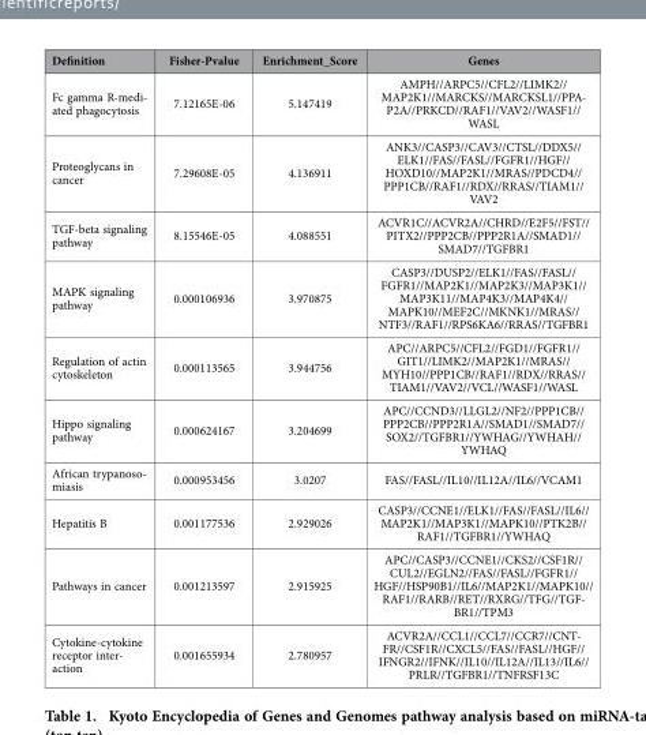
<table><thead><tr><td>Definition</td><td>Fisher-Pvalue</td><td>Enrichment_Score</td><td>Genes</td></tr></thead><tbody><tr><td>Fc gamma R-medi- ated phagocytosis</td><td>7.12165E-06</td><td>5.147419</td><td>AMPH//ARPC5//CFL2//LIMK2// MAP2K1//MARCKS//MARCKSL1//PPA- P2A//PRKCD//RAF1//VAV2//WASF1// WASL</td></tr><tr><td>Proteoglycans in cancer</td><td>7.29608E-05</td><td>4.136911</td><td>ANK3//CASP3//CAV3//CTSL//DDX5// ELK1//FAS//FASL//FGFR1//HGF// HOXD10//MAP2K1//MRAS//PDCD4// PPP1CB//RAF1//RDX//RRAS//TIAM1// VAV2</td></tr><tr><td>TGF-beta signaling pathway</td><td>8.15546E-05</td><td>4.088551</td><td>ACVR1C//ACVR2A//CHRD//E2F5//FST// PITX2//PPP2CB//PPP2R1A//SMAD1// SMAD7//TGFBR1</td></tr><tr><td>MAPK signaling pathway</td><td>0.000106936</td><td>3.970875</td><td>CASP3//DUSP2//ELK1//FAS//FASL// FGFR1//MAP2K1//MAP2K3//MAP3K1// MAP3K11//MAP4K3//MAP4K4// MAPK10//MEF2C//MKNK1//MRAS// NTF3//RAF1//RPS6KA6//RRAS//TGFBR1</td></tr><tr><td>Regulation of actin cytoskeleton</td><td>0.000113565</td><td>3.944756</td><td>APC//ARPC5//CFL2//FGD1//FGFR1// GIT1//LIMK2//MAP2K1//MRAS// MYH10//PPP1CB//RAF1//RDX//RRAS// TIAM1//VAV2//VCL//WASF1//WASL</td></tr><tr><td>Hippo signaling pathway</td><td>0.000624167</td><td>3.204699</td><td>APC//CCND3//LLGL2//NF2//PPP1CB// PPP2CB//PPP2R1A//SMAD1//SMAD7// SOX2//TGFBR1//YWHAG//YWHAH// YWHAQ</td></tr><tr><td>African trypanoso- miasis</td><td>0.000953456</td><td>3.0207</td><td>FAS//FASL//IL10//IL12A//IL6//VCAM1</td></tr><tr><td>Hepatitis B</td><td>0.001177536</td><td>2.929026</td><td>CASP3//CCNE1//ELK1//FAS//FASL//IL6// MAP2K1//MAP3K1//MAPK10//PTK2B// RAF1//TGFBR1//YWHAQ</td></tr><tr><td>Pathways in cancer</td><td>0.001213597</td><td>2.915925</td><td>APC//CASP3//CCNE1//CKS2//CSF1R// CUL2//EGLN2//FAS//FASL//FGFR1// HGF//HSP90B1//IL6//MAP2K1//MAPK10// RAF1//RARB//RET//RXRG//TFG//TGF- BR1//TPM3</td></tr><tr><td>Cytokine-cytokine receptor inter- action</td><td>0.001655934</td><td>2.780957</td><td>ACVR2A//CCL1//CCL7//CCR7//CNT- FR//CSF1R//CXCL5//FAS//FASL//HGF// IFNGR2//IFNK//IL10//IL12A//IL13//IL6// PRLR//TGFBR1//TNFRSF13C</td></tr></tbody></table>